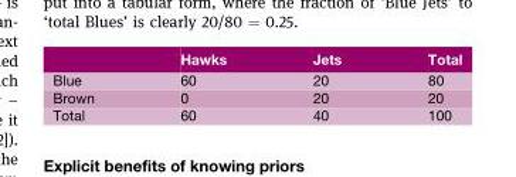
<table><thead><tr><td></td><td>Hawks</td><td>Jets</td><td>Total</td></tr></thead><tbody><tr><td>Blue</td><td>60</td><td>20</td><td>80</td></tr><tr><td>Brown</td><td>0</td><td>20</td><td>20</td></tr><tr><td>Total</td><td>60</td><td>40</td><td>100</td></tr></tbody></table>